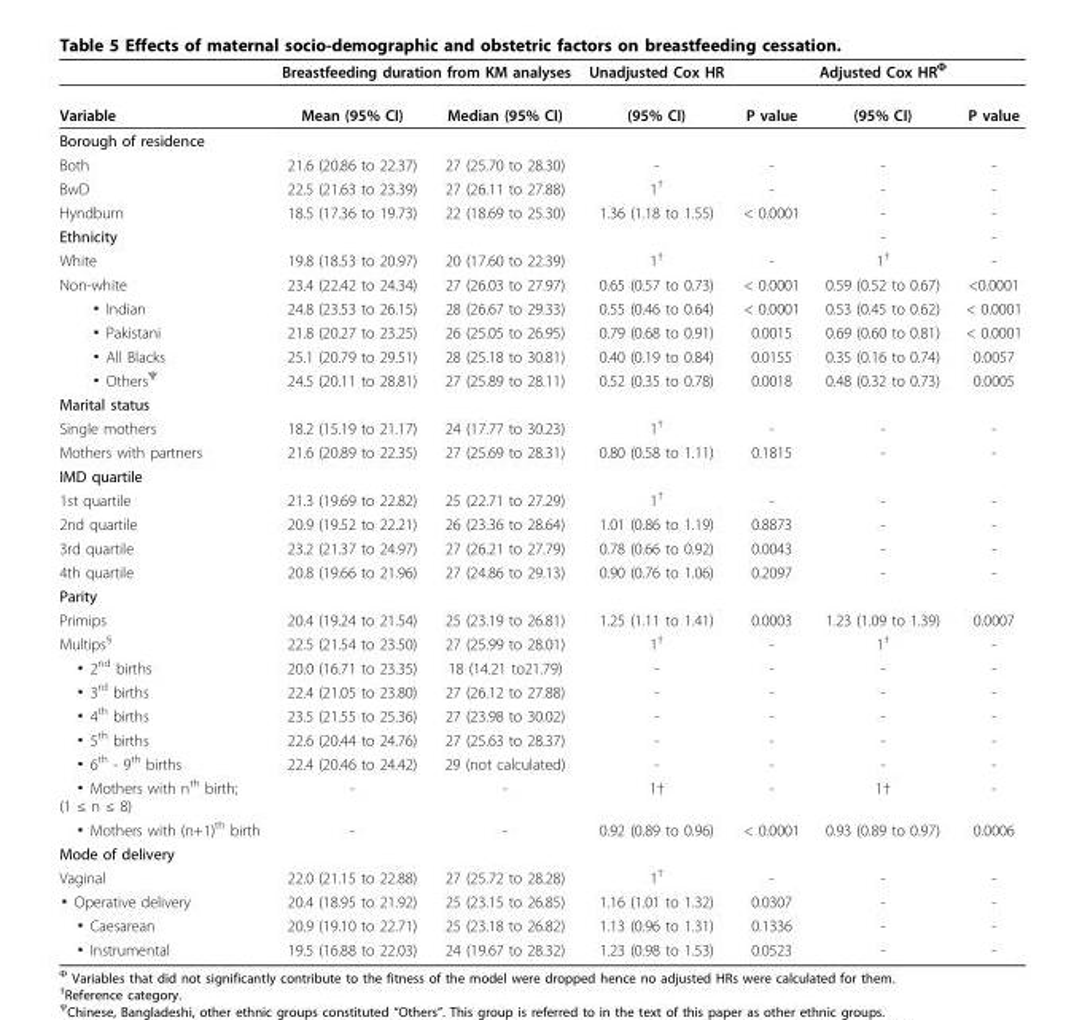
<table><thead><tr><td rowspan="2">Variable</td><td colspan="2">Breastfeeding duration from KM analyses</td><td rowspan="2">Unadjusted Cox HR (95% CI)</td><td rowspan="2">P value</td><td rowspan="2">Adjusted Cox HR<sup>Φ</sup> (95% CI)</td><td rowspan="2">P value</td></tr><tr><td>Mean (95% CI)</td><td>Median (95% CI)</td></tr></thead><tbody><tr><td colspan="7">Borough of residence</td></tr><tr><td>Both</td><td>21.6 (20.86 to 22.37)</td><td>27 (25.70 to 28.30)</td><td>-</td><td>-</td><td>-</td><td>-</td></tr><tr><td>BwD</td><td>22.5 (21.63 to 23.39)</td><td>27 (26.11 to 27.88)</td><td>1<sup>†</sup></td><td>-</td><td>-</td><td>-</td></tr><tr><td>Hyndburn</td><td>18.5 (17.36 to 19.73)</td><td>22 (18.69 to 25.30)</td><td>1.36 (1.18 to 1.55)</td><td>&lt; 0.0001</td><td>-</td><td>-</td></tr><tr><td>Ethnicity</td><td></td><td></td><td></td><td></td><td>-</td><td>-</td></tr><tr><td>White</td><td>19.8 (18.53 to 20.97)</td><td>20 (17.60 to 22.39)</td><td>1<sup>†</sup></td><td>-</td><td>1<sup>†</sup></td><td>-</td></tr><tr><td>Non-white</td><td>23.4 (22.42 to 24.34)</td><td>27 (26.03 to 27.97)</td><td>0.65 (0.57 to 0.73)</td><td>&lt; 0.0001</td><td>0.59 (0.52 to 0.67)</td><td>&lt;0.0001</td></tr><tr><td>▪ Indian</td><td>24.8 (23.53 to 26.15)</td><td>28 (26.67 to 29.33)</td><td>0.55 (0.46 to 0.64)</td><td>&lt; 0.0001</td><td>0.53 (0.45 to 0.62)</td><td>&lt; 0.0001</td></tr><tr><td>▪ Pakistani</td><td>21.8 (20.27 to 23.25)</td><td>26 (25.05 to 26.95)</td><td>0.79 (0.68 to 0.91)</td><td>0.0015</td><td>0.69 (0.60 to 0.81)</td><td>&lt; 0.0001</td></tr><tr><td>▪ All Blacks</td><td>25.1 (20.79 to 29.51)</td><td>28 (25.18 to 30.81)</td><td>0.40 (0.19 to 0.84)</td><td>0.0155</td><td>0.35 (0.16 to 0.74)</td><td>0.0057</td></tr><tr><td>▪ Others<sup>Ψ</sup></td><td>24.5 (20.11 to 28.81)</td><td>27 (25.89 to 28.11)</td><td>0.52 (0.35 to 0.78)</td><td>0.0018</td><td>0.48 (0.32 to 0.73)</td><td>0.0005</td></tr><tr><td colspan="7">Marital status</td></tr><tr><td>Single mothers</td><td>18.2 (15.19 to 21.17)</td><td>24 (17.77 to 30.23)</td><td>1<sup>†</sup></td><td>-</td><td>-</td><td>-</td></tr><tr><td>Mothers with partners</td><td>21.6 (20.89 to 22.35)</td><td>27 (25.69 to 28.31)</td><td>0.80 (0.58 to 1.11)</td><td>0.1815</td><td>-</td><td>-</td></tr><tr><td colspan="7">IMD quartile</td></tr><tr><td>1st quartile</td><td>21.3 (19.69 to 22.82)</td><td>25 (22.71 to 27.29)</td><td>1<sup>†</sup></td><td>-</td><td>-</td><td>-</td></tr><tr><td>2nd quartile</td><td>20.9 (19.52 to 22.21)</td><td>26 (23.36 to 28.64)</td><td>1.01 (0.86 to 1.19)</td><td>0.8873</td><td>-</td><td>-</td></tr><tr><td>3rd quartile</td><td>23.2 (21.37 to 24.97)</td><td>27 (26.21 to 27.79)</td><td>0.78 (0.66 to 0.92)</td><td>0.0043</td><td>-</td><td>-</td></tr><tr><td>4th quartile</td><td>20.8 (19.66 to 21.96)</td><td>27 (24.86 to 29.13)</td><td>0.90 (0.76 to 1.06)</td><td>0.2097</td><td>-</td><td>-</td></tr><tr><td colspan="7">Parity</td></tr><tr><td>Primips</td><td>20.4 (19.24 to 21.54)</td><td>25 (23.19 to 26.81)</td><td>1.25 (1.11 to 1.41)</td><td>0.0003</td><td>1.23 (1.09 to 1.39)</td><td>0.0007</td></tr><tr><td>Multips<sup>§</sup></td><td>22.5 (21.54 to 23.50)</td><td>27 (25.99 to 28.01)</td><td>1<sup>†</sup></td><td>-</td><td>1<sup>†</sup></td><td>-</td></tr><tr><td>▪ 2<sup>nd</sup> births</td><td>20.0 (16.71 to 23.35)</td><td>18 (14.21 to21.79)</td><td>-</td><td>-</td><td>-</td><td>-</td></tr><tr><td>▪ 3<sup>rd</sup> births</td><td>22.4 (21.05 to 23.80)</td><td>27 (26.12 to 27.88)</td><td>-</td><td>-</td><td>-</td><td>-</td></tr><tr><td>▪ 4<sup>th</sup> births</td><td>23.5 (21.55 to 25.36)</td><td>27 (23.98 to 30.02)</td><td>-</td><td>-</td><td>-</td><td>-</td></tr><tr><td>▪ 5<sup>th</sup> births</td><td>22.6 (20.44 to 24.76)</td><td>27 (25.63 to 28.37)</td><td>-</td><td>-</td><td>-</td><td>-</td></tr><tr><td>▪ 6<sup>th</sup> - 9<sup>th</sup> births</td><td>22.4 (20.46 to 24.42)</td><td>29 (not calculated)</td><td>-</td><td>-</td><td>-</td><td>-</td></tr><tr><td>▪ Mothers with n<sup>th</sup> birth; (1 ≤ n ≤ 8)</td><td>-</td><td>-</td><td>1†</td><td>-</td><td>1†</td><td>-</td></tr><tr><td>▪ Mothers with (n+1)<sup>th</sup> birth</td><td>-</td><td>-</td><td>0.92 (0.89 to 0.96)</td><td>&lt; 0.0001</td><td>0.93 (0.89 to 0.97)</td><td>0.0006</td></tr><tr><td colspan="7">Mode of delivery</td></tr><tr><td>Vaginal</td><td>22.0 (21.15 to 22.88)</td><td>27 (25.72 to 28.28)</td><td>1<sup>†</sup></td><td>-</td><td>-</td><td>-</td></tr><tr><td>▪ Operative delivery</td><td>20.4 (18.95 to 21.92)</td><td>25 (23.15 to 26.85)</td><td>1.16 (1.01 to 1.32)</td><td>0.0307</td><td>-</td><td>-</td></tr><tr><td>▪ Caesarean</td><td>20.9 (19.10 to 22.71)</td><td>25 (23.18 to 26.82)</td><td>1.13 (0.96 to 1.31)</td><td>0.1336</td><td>-</td><td>-</td></tr><tr><td>▪ Instrumental</td><td>19.5 (16.88 to 22.03)</td><td>24 (19.67 to 28.32)</td><td>1.23 (0.98 to 1.53)</td><td>0.0523</td><td>-</td><td>-</td></tr></tbody></table>